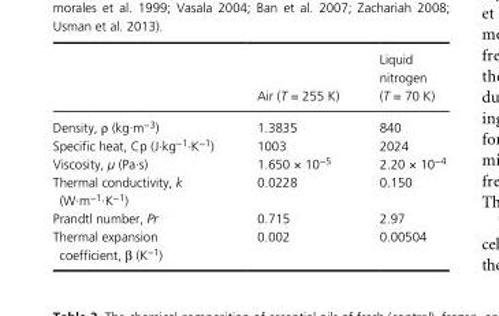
<table><thead><tr><td></td><td>Air (T = 255 K)</td><td>Liquid nitrogen (T = 70 K)</td></tr></thead><tbody><tr><td>Density, ρ (kg·m<sup>−3</sup>)</td><td>1.3835</td><td>840</td></tr><tr><td>Specific heat, Cp (J·kg<sup>−1</sup>·K<sup>−1</sup>)</td><td>1003</td><td>2024</td></tr><tr><td>Viscosity, μ (Pa·s)</td><td>1.650 × 10<sup>−5</sup></td><td>2.20 × 10<sup>−4</sup></td></tr><tr><td>Thermal conductivity, k (W·m<sup>−1</sup>·K<sup>−1</sup>)</td><td>0.0228</td><td>0.150</td></tr><tr><td>Prandtl number, Pr</td><td>0.715</td><td>2.97</td></tr><tr><td>Thermal expansion coefficient, β (K<sup>−1</sup>)</td><td>0.002</td><td>0.00504</td></tr></tbody></table>